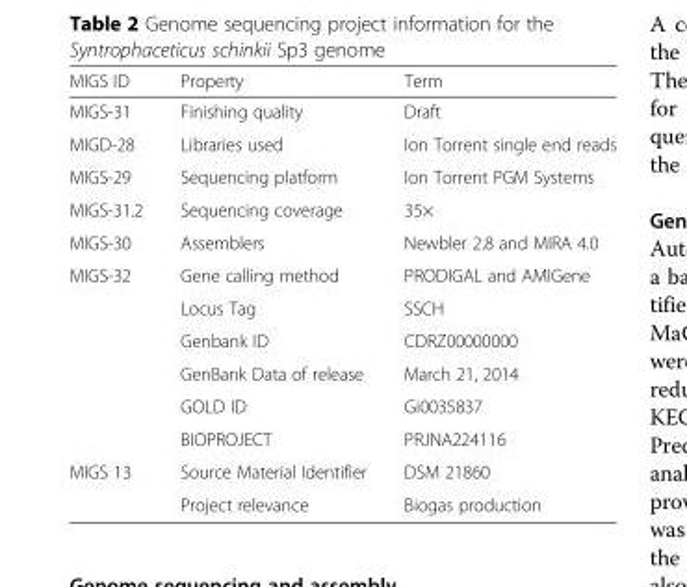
<table><thead><tr><td>MIGS ID</td><td>Property</td><td>Term</td></tr></thead><tbody><tr><td>MIGS-31</td><td>Finishing quality</td><td>Draft</td></tr><tr><td>MIGD-28</td><td>Libraries used</td><td>Ion Torrent single end reads</td></tr><tr><td>MIGS-29</td><td>Sequencing platform</td><td>Ion Torrent PGM Systems</td></tr><tr><td>MIGS-31.2</td><td>Sequencing coverage</td><td>35×</td></tr><tr><td>MIGS-30</td><td>Assemblers</td><td>Newbler 2.8 and MIRA 4.0</td></tr><tr><td rowspan="6">MIGS-32</td><td>Gene calling method</td><td>PRODIGAL and AMIGene</td></tr><tr><td>Locus Tag</td><td>SSCH</td></tr><tr><td>Genbank ID</td><td>CDRZ00000000</td></tr><tr><td>GenBank Data of release</td><td>March 21, 2014</td></tr><tr><td>GOLD ID</td><td>Gi0035837</td></tr><tr><td>BIOPROJECT</td><td>PRJNA224116</td></tr><tr><td rowspan="2">MIGS 13</td><td>Source Material Identifier</td><td>DSM 21860</td></tr><tr><td>Project relevance</td><td>Biogas production</td></tr></tbody></table>